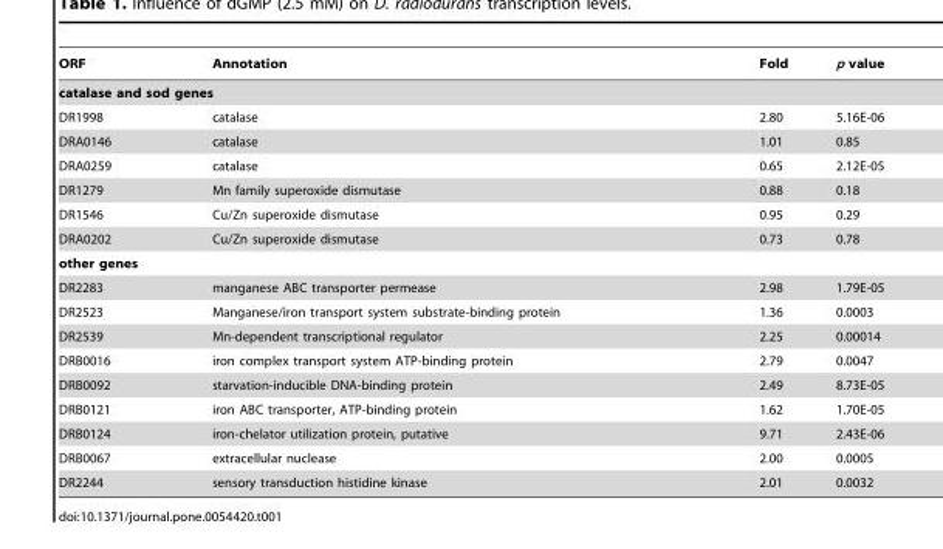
<table><thead><tr><td>ORF</td><td>Annotation</td><td>Fold</td><td>p value</td></tr></thead><tbody><tr><td colspan="4">catalase and sod genes</td></tr><tr><td>DR1998</td><td>catalase</td><td>2.80</td><td>5.16E-06</td></tr><tr><td>DRA0146</td><td>catalase</td><td>1.01</td><td>0.85</td></tr><tr><td>DRA0259</td><td>catalase</td><td>0.65</td><td>2.12E-05</td></tr><tr><td>DR1279</td><td>Mn family superoxide dismutase</td><td>0.88</td><td>0.18</td></tr><tr><td>DR1546</td><td>Cu/Zn superoxide dismutase</td><td>0.95</td><td>0.29</td></tr><tr><td>DRA0202</td><td>Cu/Zn superoxide dismutase</td><td>0.73</td><td>0.78</td></tr><tr><td colspan="4">other genes</td></tr><tr><td>DR2283</td><td>manganese ABC transporter permease</td><td>2.98</td><td>1.79E-05</td></tr><tr><td>DR2523</td><td>Manganese/iron transport system substrate-binding protein</td><td>1.36</td><td>0.0003</td></tr><tr><td>DR2539</td><td>Mn-dependent transcriptional regulator</td><td>2.25</td><td>0.00014</td></tr><tr><td>DRB0016</td><td>iron complex transport system ATP-binding protein</td><td>2.79</td><td>0.0047</td></tr><tr><td>DRB0092</td><td>starvation-inducible DNA-binding protein</td><td>2.49</td><td>8.73E-05</td></tr><tr><td>DRB0121</td><td>iron ABC transporter, ATP-binding protein</td><td>1.62</td><td>1.70E-05</td></tr><tr><td>DRB0124</td><td>iron-chelator utilization protein, putative</td><td>9.71</td><td>2.43E-06</td></tr><tr><td>DRB0067</td><td>extracellular nuclease</td><td>2.00</td><td>0.0005</td></tr><tr><td>DR2244</td><td>sensory transduction histidine kinase</td><td>2.01</td><td>0.0032</td></tr></tbody></table>